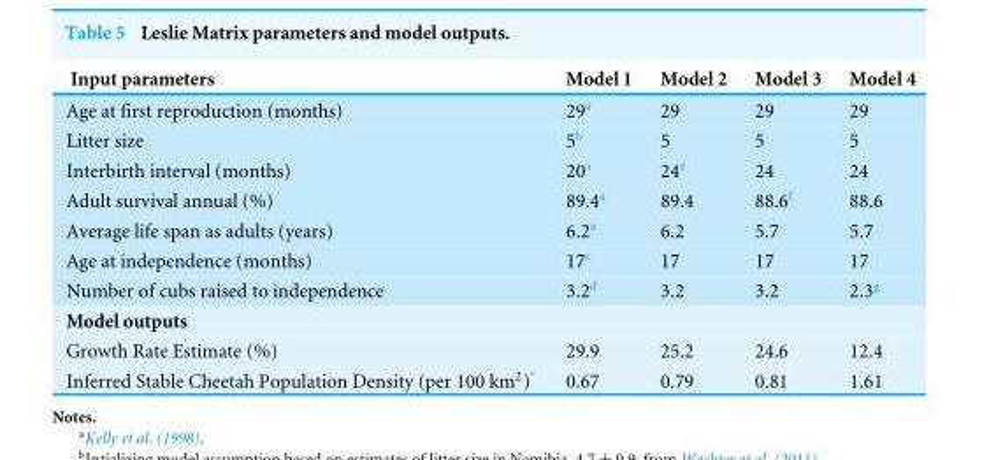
<table><thead><tr><td>Input parameters</td><td>Model 1</td><td>Model 2</td><td>Model 3</td><td>Model 4</td></tr></thead><tbody><tr><td>Age at first reproduction (months)</td><td>29<sup>a</sup></td><td>29</td><td>29</td><td>29</td></tr><tr><td>Litter size</td><td>5<sup>b</sup></td><td>5</td><td>5</td><td>5</td></tr><tr><td>Interbirth interval (months)</td><td>20<sup>a</sup></td><td>24<sup>e</sup></td><td>24</td><td>24</td></tr><tr><td>Adult survival annual (%)</td><td>89.4<sup>a</sup></td><td>89.4</td><td>88.6<sup>f</sup></td><td>88.6</td></tr><tr><td>Average life span as adults (years)</td><td>6.2<sup>a</sup></td><td>6.2</td><td>5.7</td><td>5.7</td></tr><tr><td>Age at independence (months)</td><td>17<sup>c</sup></td><td>17</td><td>17</td><td>17</td></tr><tr><td>Number of cubs raised to independence</td><td>3.2<sup>d</sup></td><td>3.2</td><td>3.2</td><td>2.3<sup>g</sup></td></tr><tr><td colspan="5">Model outputs</td></tr><tr><td>Growth Rate Estimate (%)</td><td>29.9</td><td>25.2</td><td>24.6</td><td>12.4</td></tr><tr><td>Inferred Stable Cheetah Population Density (per 100 km<sup>2</sup>)*</td><td>0.67</td><td>0.79</td><td>0.81</td><td>1.61</td></tr></tbody></table>